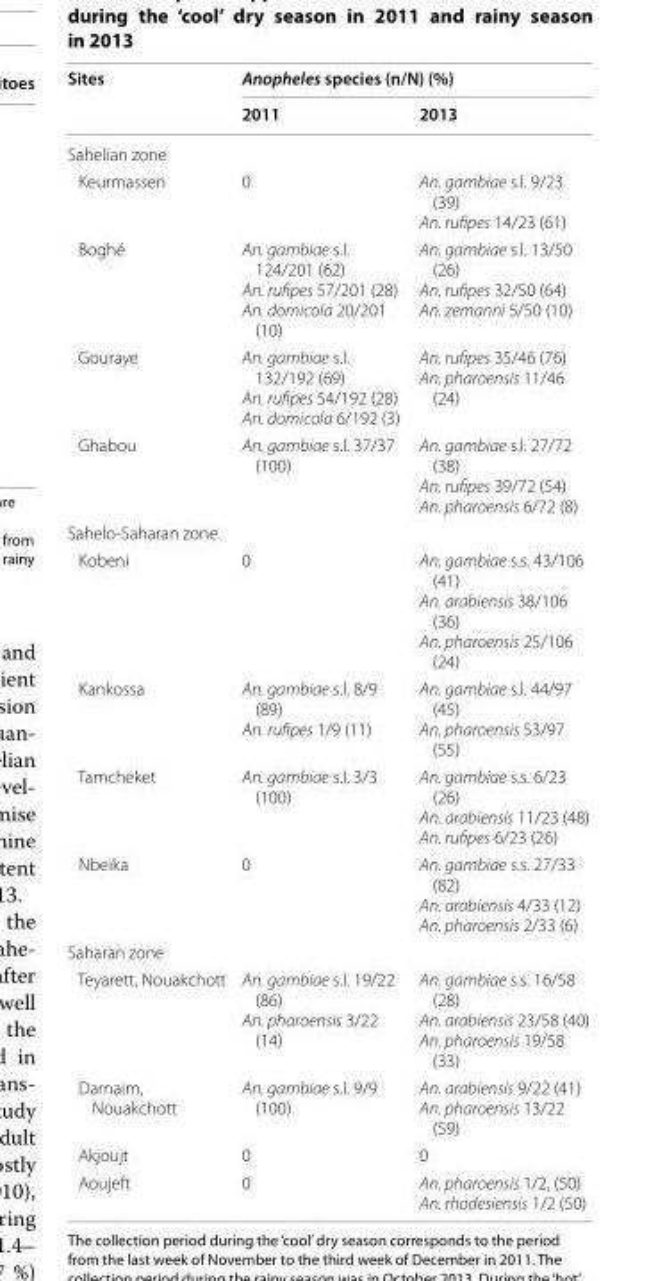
<table><thead><tr><td rowspan="2">Sites</td><td colspan="2">Anopheles species (n/N) (%)</td></tr><tr><td>2011</td><td>2013</td></tr></thead><tbody><tr><td colspan="3">Sahelian zone</td></tr><tr><td>Keurmassen</td><td>0</td><td>An. gambiae s.l. 9/23 (39) An. rufipes 14/23 (61)</td></tr><tr><td>Boghé</td><td>An. gambiae s.l. 124/201 (62) An. rufipes 57/201 (28) An. domicola 20/201 (10)</td><td>An. gambiae s.l. 13/50 (26) An. rufipes 32/50 (64) An. zemanni 5/50 (10)</td></tr><tr><td>Gouraye</td><td>An. gambiae s.l. 132/192 (69) An. rufipes 54/192 (28) An. domicola 6/192 (3)</td><td>An. rufipes 35/46 (76) An. pharoensis 11/46 (24)</td></tr><tr><td>Ghabou</td><td>An. gambiae s.l. 37/37 (100)</td><td>An. gambiae s.l. 27/72 (38) An. rufipes 39/72 (54) An. pharoensis 6/72 (8)</td></tr><tr><td colspan="3">Sahelo-Saharan zone</td></tr><tr><td>Kobeni</td><td>0</td><td>An. gambiae s.s. 43/106 (41) An. arabiensis 38/106 (36) An. pharoensis 25/106 (24)</td></tr><tr><td>Kankossa</td><td>An. gambiae s.l. 8/9 (89) An. rufipes 1/9 (11)</td><td>An. gambiae s.l. 44/97 (45) An. pharoensis 53/97 (55)</td></tr><tr><td>Tamcheket</td><td>An. gambiae s.l. 3/3 (100)</td><td>An. gambiae s.s. 6/23 (26) An. arabiensis 11/23 (48) An. rufipes 6/23 (26)</td></tr><tr><td>Nbeika</td><td>0</td><td>An. gambiae s.s. 27/33 (82) An. arabiensis 4/33 (12) An. pharoensis 2/33 (6)</td></tr><tr><td colspan="3">Saharan zone</td></tr><tr><td>Teyarett, Nouakchott</td><td>An. gambiae s.l. 19/22 (86) An. pharoensis 3/22 (14)</td><td>An. gambiae s.s. 16/58 (28) An. arabiensis 23/58 (40) An. pharoensis 19/58 (33)</td></tr><tr><td>Darnaim, Nouakchott</td><td>An. gambiae s.l. 9/9 (100)</td><td>An. arabiensis 9/22 (41) An. pharoensis 13/22 (59)</td></tr><tr><td>Akjoujt</td><td>0</td><td>0</td></tr><tr><td>Aoujeft</td><td>0</td><td>An. pharoensis 1/2, (50) An. rhodesiensis 1/2 (50)</td></tr></tbody></table>